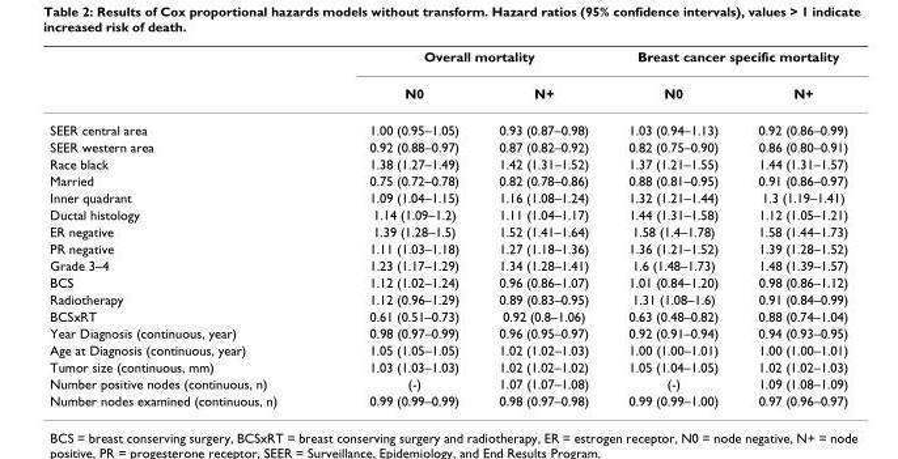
<table><thead><tr><td rowspan="2"></td><td colspan="2">Overall mortality</td><td colspan="2">Breast cancer specific mortality</td></tr><tr><td>N0</td><td>N+</td><td>N0</td><td>N+</td></tr></thead><tbody><tr><td>SEER central area</td><td>1.00 (0.95–1.05)</td><td>0.93 (0.87–0.98)</td><td>1.03 (0.94–1.13)</td><td>0.92 (0.86–0.99)</td></tr><tr><td>SEER western area</td><td>0.92 (0.88–0.97)</td><td>0.87 (0.82–0.92)</td><td>0.82 (0.75–0.90)</td><td>0.86 (0.80–0.91)</td></tr><tr><td>Race black</td><td>1.38 (1.27–1.49)</td><td>1.42 (1.31–1.52)</td><td>1.37 (1.21–1.55)</td><td>1.44 (1.31–1.57)</td></tr><tr><td>Married</td><td>0.75 (0.72–0.78)</td><td>0.82 (0.78–0.86)</td><td>0.88 (0.81–0.95)</td><td>0.91 (0.86–0.97)</td></tr><tr><td>Inner quadrant</td><td>1.09 (1.04–1.15)</td><td>1.16 (1.08–1.24)</td><td>1.32 (1.21–1.44)</td><td>1.3 (1.19–1.41)</td></tr><tr><td>Ductal histology</td><td>1.14 (1.09–1.2)</td><td>1.11 (1.04–1.17)</td><td>1.44 (1.31–1.58)</td><td>1.12 (1.05–1.21)</td></tr><tr><td>ER negative</td><td>1.39 (1.28–1.5)</td><td>1.52 (1.41–1.64)</td><td>1.58 (1.4–1.78)</td><td>1.58 (1.44–1.73)</td></tr><tr><td>PR negative</td><td>1.11 (1.03–1.18)</td><td>1.27 (1.18–1.36)</td><td>1.36 (1.21–1.52)</td><td>1.39 (1.28–1.52)</td></tr><tr><td>Grade 3–4</td><td>1.23 (1.17–1.29)</td><td>1.34 (1.28–1.41)</td><td>1.6 (1.48–1.73)</td><td>1.48 (1.39–1.57)</td></tr><tr><td>BCS</td><td>1.12 (1.02–1.24)</td><td>0.96 (0.86–1.07)</td><td>1.01 (0.84–1.20)</td><td>0.98 (0.86–1.12)</td></tr><tr><td>Radiotherapy</td><td>1.12 (0.96–1.29)</td><td>0.89 (0.83–0.95)</td><td>1.31 (1.08–1.6)</td><td>0.91 (0.84–0.99)</td></tr><tr><td>BCSxRT</td><td>0.61 (0.51–0.73)</td><td>0.92 (0.8–1.06)</td><td>0.63 (0.48–0.82)</td><td>0.88 (0.74–1.04)</td></tr><tr><td>Year Diagnosis (continuous, year)</td><td>0.98 (0.97–0.99)</td><td>0.96 (0.95–0.97)</td><td>0.92 (0.91–0.94)</td><td>0.94 (0.93–0.95)</td></tr><tr><td>Age at Diagnosis (continuous, year)</td><td>1.05 (1.05–1.05)</td><td>1.02 (1.02–1.03)</td><td>1.00 (1.00–1.01)</td><td>1.00 (1.00–1.01)</td></tr><tr><td>Tumor size (continuous, mm)</td><td>1.03 (1.03–1.03)</td><td>1.02 (1.02–1.02)</td><td>1.05 (1.04–1.05)</td><td>1.02 (1.02–1.03)</td></tr><tr><td>Number positive nodes (continuous, n)</td><td>(-)</td><td>1.07 (1.07–1.08)</td><td>(-)</td><td>1.09 (1.08–1.09)</td></tr><tr><td>Number nodes examined (continuous, n)</td><td>0.99 (0.99–0.99)</td><td>0.98 (0.97–0.98)</td><td>0.99 (0.99–1.00)</td><td>0.97 (0.96–0.97)</td></tr></tbody></table>